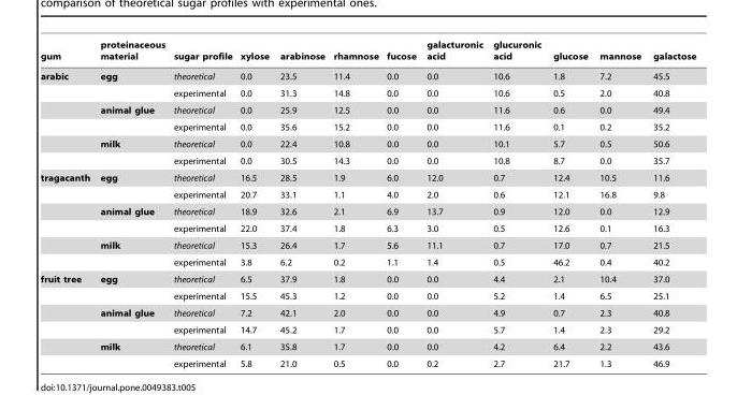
<table><thead><tr><td>gum</td><td>proteinaceous material</td><td>sugar profile</td><td>xylose</td><td>arabinose</td><td>rhamnose</td><td>fucose</td><td>galacturonic acid</td><td>glucuronic acid</td><td>glucose</td><td>mannose</td><td>galactose</td></tr></thead><tbody><tr><td rowspan="6">arabic</td><td>egg</td><td>theoretical</td><td>0.0</td><td>23.5</td><td>11.4</td><td>0.0</td><td>0.0</td><td>10.6</td><td>1.8</td><td>7.2</td><td>45.5</td></tr><tr><td></td><td>experimental</td><td>0.0</td><td>31.3</td><td>14.8</td><td>0.0</td><td>0.0</td><td>10.6</td><td>0.5</td><td>2.0</td><td>40.8</td></tr><tr><td>animal glue</td><td>theoretical</td><td>0.0</td><td>25.9</td><td>12.5</td><td>0.0</td><td>0.0</td><td>11.6</td><td>0.6</td><td>0.0</td><td>49.4</td></tr><tr><td></td><td>experimental</td><td>0.0</td><td>35.6</td><td>15.2</td><td>0.0</td><td>0.0</td><td>11.6</td><td>0.1</td><td>0.2</td><td>35.2</td></tr><tr><td>milk</td><td>theoretical</td><td>0.0</td><td>22.4</td><td>10.8</td><td>0.0</td><td>0.0</td><td>10.1</td><td>5.7</td><td>0.5</td><td>50.6</td></tr><tr><td></td><td>experimental</td><td>0.0</td><td>30.5</td><td>14.3</td><td>0.0</td><td>0.0</td><td>10.8</td><td>8.7</td><td>0.0</td><td>35.7</td></tr><tr><td rowspan="6">tragacanth</td><td>egg</td><td>theoretical</td><td>16.5</td><td>28.5</td><td>1.9</td><td>6.0</td><td>12.0</td><td>0.7</td><td>12.4</td><td>10.5</td><td>11.6</td></tr><tr><td></td><td>experimental</td><td>20.7</td><td>33.1</td><td>1.1</td><td>4.0</td><td>2.0</td><td>0.6</td><td>12.1</td><td>16.8</td><td>9.8</td></tr><tr><td>animal glue</td><td>theoretical</td><td>18.9</td><td>32.6</td><td>2.1</td><td>6.9</td><td>13.7</td><td>0.9</td><td>12.0</td><td>0.0</td><td>12.9</td></tr><tr><td></td><td>experimental</td><td>22.0</td><td>37.4</td><td>1.8</td><td>6.3</td><td>3.0</td><td>0.5</td><td>12.6</td><td>0.1</td><td>16.3</td></tr><tr><td>milk</td><td>theoretical</td><td>15.3</td><td>26.4</td><td>1.7</td><td>5.6</td><td>11.1</td><td>0.7</td><td>17.0</td><td>0.7</td><td>21.5</td></tr><tr><td></td><td>experimental</td><td>3.8</td><td>6.2</td><td>0.2</td><td>1.1</td><td>1.4</td><td>0.5</td><td>46.2</td><td>0.4</td><td>40.2</td></tr><tr><td rowspan="6">fruit tree</td><td>egg</td><td>theoretical</td><td>6.5</td><td>37.9</td><td>1.8</td><td>0.0</td><td>0.0</td><td>4.4</td><td>2.1</td><td>10.4</td><td>37.0</td></tr><tr><td></td><td>experimental</td><td>15.5</td><td>45.3</td><td>1.2</td><td>0.0</td><td>0.0</td><td>5.2</td><td>1.4</td><td>6.5</td><td>25.1</td></tr><tr><td>animal glue</td><td>theoretical</td><td>7.2</td><td>42.1</td><td>2.0</td><td>0.0</td><td>0.0</td><td>4.9</td><td>0.7</td><td>2.3</td><td>40.8</td></tr><tr><td></td><td>experimental</td><td>14.7</td><td>45.2</td><td>1.7</td><td>0.0</td><td>0.0</td><td>5.7</td><td>1.4</td><td>2.3</td><td>29.2</td></tr><tr><td>milk</td><td>theoretical</td><td>6.1</td><td>35.8</td><td>1.7</td><td>0.0</td><td>0.0</td><td>4.2</td><td>6.4</td><td>2.2</td><td>43.6</td></tr><tr><td></td><td>experimental</td><td>5.8</td><td>21.0</td><td>0.5</td><td>0.0</td><td>0.2</td><td>2.7</td><td>21.7</td><td>1.3</td><td>46.9</td></tr></tbody></table>